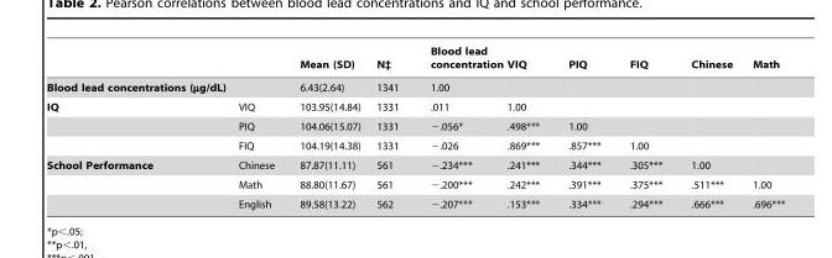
<table><thead><tr><td></td><td></td><td>Mean (SD)</td><td>N‡</td><td>Blood lead concentration</td><td>VIQ</td><td>PIQ</td><td>FIQ</td><td>Chinese</td><td>Math</td></tr></thead><tbody><tr><td>Blood lead concentrations (µg/dL)</td><td></td><td>6.43(2.64)</td><td>1341</td><td>1.00</td><td></td><td></td><td></td><td></td><td></td></tr><tr><td rowspan="3">IQ</td><td>VIQ</td><td>103.95(14.84)</td><td>1331</td><td>.011</td><td>1.00</td><td></td><td></td><td></td><td></td></tr><tr><td>PIQ</td><td>104.06(15.07)</td><td>1331</td><td>−.056*</td><td>.498***</td><td>1.00</td><td></td><td></td><td></td></tr><tr><td>FIQ</td><td>104.19(14.38)</td><td>1331</td><td>−.026</td><td>.869***</td><td>.857***</td><td>1.00</td><td></td><td></td></tr><tr><td rowspan="3">School Performance</td><td>Chinese</td><td>87.87(11.11)</td><td>561</td><td>−.234***</td><td>.241***</td><td>.344***</td><td>.305***</td><td>1.00</td><td></td></tr><tr><td>Math</td><td>88.80(11.67)</td><td>561</td><td>−.200***</td><td>.242***</td><td>.391***</td><td>.375***</td><td>.511***</td><td>1.00</td></tr><tr><td>English</td><td>89.58(13.22)</td><td>562</td><td>−.207***</td><td>.153***</td><td>.334***</td><td>.294***</td><td>.666***</td><td>.696***</td></tr></tbody></table>